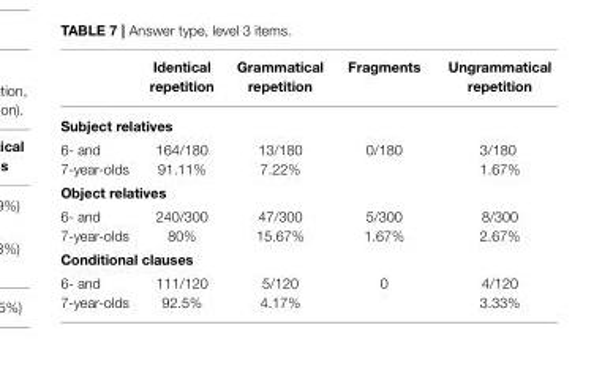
<table><thead><tr><td></td><td>Identical repetition</td><td>Grammatical repetition</td><td>Fragments</td><td>Ungrammatical repetition</td></tr></thead><tbody><tr><td colspan="5">Subject relatives</td></tr><tr><td>6- and 7-year-olds</td><td>164/180 91.11%</td><td>13/180 7.22%</td><td>0/180</td><td>3/180 1.67%</td></tr><tr><td colspan="5">Object relatives</td></tr><tr><td>6- and 7-year-olds</td><td>240/300 80%</td><td>47/300 15.67%</td><td>5/300 1.67%</td><td>8/300 2.67%</td></tr><tr><td colspan="5">Conditional clauses</td></tr><tr><td>6- and 7-year-olds</td><td>111/120 92.5%</td><td>5/120 4.17%</td><td>0</td><td>4/120 3.33%</td></tr></tbody></table>